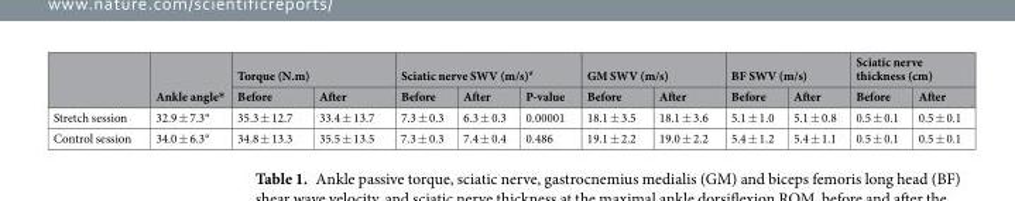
<table><thead><tr><td rowspan="2"></td><td rowspan="2">Ankle angle*</td><td colspan="2">Torque (N.m)</td><td colspan="3">Sciatic nerve SWV (m/s)<sup>#</sup></td><td colspan="2">GM SWV (m/s)</td><td colspan="2">BF SWV (m/s)</td><td colspan="2">Sciatic nerve thickness (cm)</td></tr><tr><td>Before</td><td>After</td><td>Before</td><td>After</td><td>P-value</td><td>Before</td><td>After</td><td>Before</td><td>After</td><td>Before</td><td>After</td></tr></thead><tbody><tr><td>Stretch session</td><td>32.9 ± 7.3°</td><td>35.3 ± 12.7</td><td>33.4 ± 13.7</td><td>7.3 ± 0.3</td><td>6.3 ± 0.3</td><td>0.00001</td><td>18.1 ± 3.5</td><td>18.1 ± 3.6</td><td>5.1 ± 1.0</td><td>5.1 ± 0.8</td><td>0.5 ± 0.1</td><td>0.5 ± 0.1</td></tr><tr><td>Control session</td><td>34.0 ± 6.3°</td><td>34.8 ± 13.3</td><td>35.5 ± 13.5</td><td>7.3 ± 0.3</td><td>7.4 ± 0.4</td><td>0.486</td><td>19.1 ± 2.2</td><td>19.0 ± 2.2</td><td>5.4 ± 1.2</td><td>5.4 ± 1.1</td><td>0.5 ± 0.1</td><td>0.5 ± 0.1</td></tr></tbody></table>